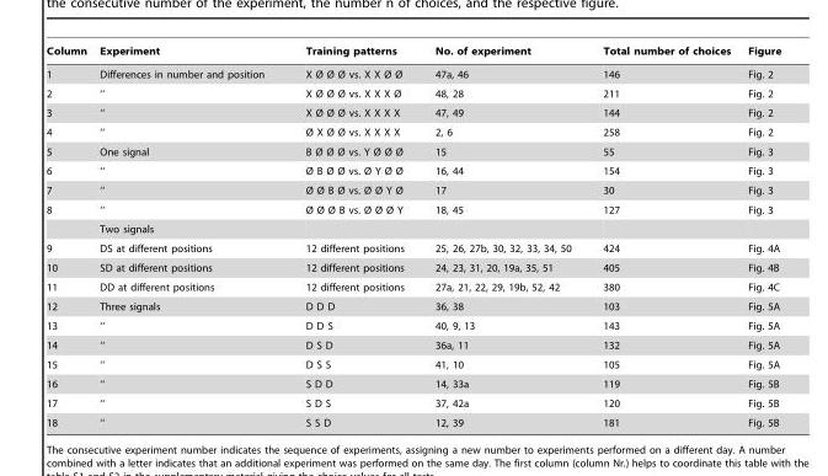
<table><thead><tr><td>Column</td><td>Experiment</td><td>Training patterns</td><td>No. of experiment</td><td>Total number of choices</td><td>Figure</td></tr></thead><tbody><tr><td>1</td><td>Differences in number and position</td><td>X Ø Ø Ø vs. X X Ø Ø</td><td>47a, 46</td><td>146</td><td>Fig. 2</td></tr><tr><td>2</td><td>‘‘</td><td>X Ø Ø Ø vs. X X X Ø</td><td>48, 28</td><td>211</td><td>Fig. 2</td></tr><tr><td>3</td><td>‘‘</td><td>X Ø Ø Ø vs. X X X X</td><td>47, 49</td><td>144</td><td>Fig. 2</td></tr><tr><td>4</td><td>‘‘</td><td>Ø X Ø Ø vs. X X X X</td><td>2, 6</td><td>258</td><td>Fig. 2</td></tr><tr><td>5</td><td>One signal</td><td>B Ø Ø Ø vs. Y Ø Ø Ø</td><td>15</td><td>55</td><td>Fig. 3</td></tr><tr><td>6</td><td>‘‘</td><td>Ø B Ø Ø vs. Ø Y Ø Ø</td><td>16, 44</td><td>154</td><td>Fig. 3</td></tr><tr><td>7</td><td>‘‘</td><td>Ø Ø B Ø vs. Ø Ø Y Ø</td><td>17</td><td>30</td><td>Fig. 3</td></tr><tr><td rowspan="2">8</td><td>‘‘</td><td>Ø Ø Ø B vs. Ø Ø Ø Y</td><td>18, 45</td><td>127</td><td>Fig. 3</td></tr><tr><td>Two signals</td><td></td><td></td><td></td><td></td></tr><tr><td>9</td><td>DS at different positions</td><td>12 different positions</td><td>25, 26, 27b, 30, 32, 33, 34, 50</td><td>424</td><td>Fig. 4A</td></tr><tr><td>10</td><td>SD at different positions</td><td>12 different positions</td><td>24, 23, 31, 20, 19a, 35, 51</td><td>405</td><td>Fig. 4B</td></tr><tr><td>11</td><td>DD at different positions</td><td>12 different positions</td><td>27a, 21, 22, 29, 19b, 52, 42</td><td>380</td><td>Fig. 4C</td></tr><tr><td>12</td><td>Three signals</td><td>D D D</td><td>36, 38</td><td>103</td><td>Fig. 5A</td></tr><tr><td>13</td><td>‘‘</td><td>D D S</td><td>40, 9, 13</td><td>143</td><td>Fig. 5A</td></tr><tr><td>14</td><td>‘‘</td><td>D S D</td><td>36a, 11</td><td>132</td><td>Fig. 5A</td></tr><tr><td>15</td><td>‘‘</td><td>D S S</td><td>41, 10</td><td>105</td><td>Fig. 5A</td></tr><tr><td>16</td><td>‘‘</td><td>S D D</td><td>14, 33a</td><td>119</td><td>Fig. 5B</td></tr><tr><td>17</td><td>‘‘</td><td>S D S</td><td>37, 42a</td><td>120</td><td>Fig. 5B</td></tr><tr><td>18</td><td>‘‘</td><td>S S D</td><td>12, 39</td><td>181</td><td>Fig. 5B</td></tr></tbody></table>